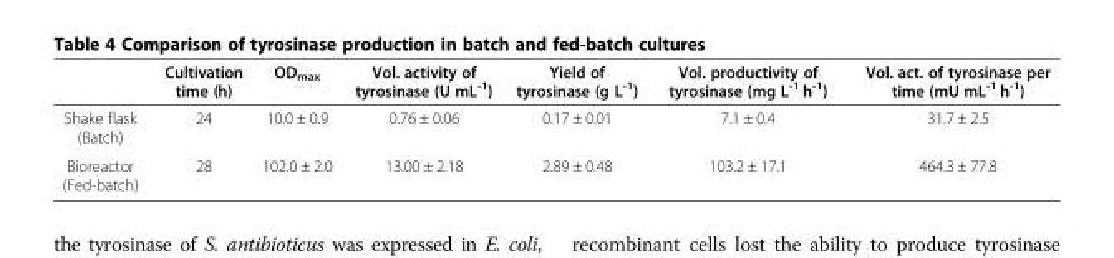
<table><thead><tr><td></td><td>Cultivation time (h)</td><td>OD<sub>max</sub></td><td>Vol. activity of tyrosinase (U mL<sup>-1</sup>)</td><td>Yield of tyrosinase (g L<sup>-1</sup>)</td><td>Vol. productivity of tyrosinase (mg L<sup>-1</sup> h<sup>-1</sup>)</td><td>Vol. act. of tyrosinase per time (mU mL<sup>-1</sup> h<sup>-1</sup>)</td></tr></thead><tbody><tr><td>Shake flask (Batch)</td><td>24</td><td>10.0 ± 0.9</td><td>0.76 ± 0.06</td><td>0.17 ± 0.01</td><td>7.1 ± 0.4</td><td>31.7 ± 2.5</td></tr><tr><td>Bioreactor (Fed-batch)</td><td>28</td><td>102.0 ± 2.0</td><td>13.00 ± 2.18</td><td>2.89 ± 0.48</td><td>103.2 ± 17.1</td><td>464.3 ± 77.8</td></tr></tbody></table>